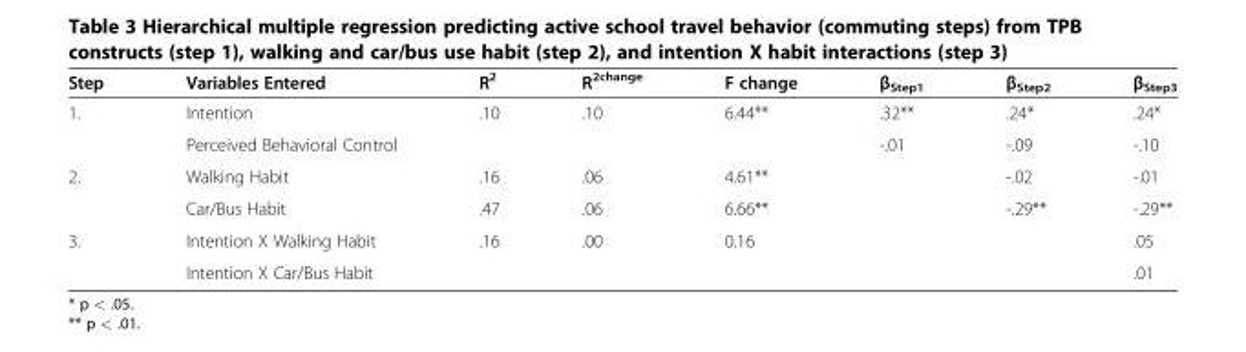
<table><thead><tr><td>Step</td><td>Variables Entered</td><td>R<sup>2</sup></td><td>R<sup>2change</sup></td><td>F change</td><td>β<sub>Step1</sub></td><td>β<sub>Step2</sub></td><td>β<sub>Step3</sub></td></tr></thead><tbody><tr><td rowspan="2">1.</td><td>Intention</td><td>.10</td><td>.10</td><td>6.44**</td><td>.32**</td><td>.24*</td><td>.24*</td></tr><tr><td>Perceived Behavioral Control</td><td></td><td></td><td></td><td>-.01</td><td>-.09</td><td>-.10</td></tr><tr><td rowspan="2">2.</td><td>Walking Habit</td><td>.16</td><td>.06</td><td>4.61**</td><td></td><td>-.02</td><td>-.01</td></tr><tr><td>Car/Bus Habit</td><td>.47</td><td>.06</td><td>6.66**</td><td></td><td>-.29**</td><td>-.29**</td></tr><tr><td rowspan="2">3.</td><td>Intention X Walking Habit</td><td>.16</td><td>.00</td><td>0.16</td><td></td><td></td><td>.05</td></tr><tr><td>Intention X Car/Bus Habit</td><td></td><td></td><td></td><td></td><td></td><td>.01</td></tr></tbody></table>